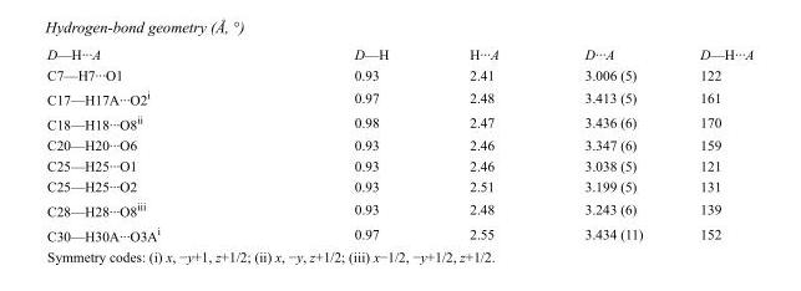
<table><tbody><tr><td>D—H···A</td><td>D—H</td><td>H···A</td><td>D···A</td><td>D—H···A</td></tr><tr><td>C7—H7···O1</td><td>0.93</td><td>2.41</td><td>3.006 (5)</td><td>122</td></tr><tr><td>C17—H17A···O2<sup>i</sup></td><td>0.97</td><td>2.48</td><td>3.413 (5)</td><td>161</td></tr><tr><td>C18—H18···O8<sup>ii</sup></td><td>0.98</td><td>2.47</td><td>3.436 (6)</td><td>170</td></tr><tr><td>C20—H20···O6</td><td>0.93</td><td>2.46</td><td>3.347 (6)</td><td>159</td></tr><tr><td>C25—H25···O1</td><td>0.93</td><td>2.46</td><td>3.038 (5)</td><td>121</td></tr><tr><td>C25—H25···O2</td><td>0.93</td><td>2.51</td><td>3.199 (5)</td><td>131</td></tr><tr><td>C28—H28···O8<sup>iii</sup></td><td>0.93</td><td>2.48</td><td>3.243 (6)</td><td>139</td></tr><tr><td>C30—H30A···O3A<sup>i</sup></td><td>0.97</td><td>2.55</td><td>3.434 (11)</td><td>152</td></tr></tbody></table>